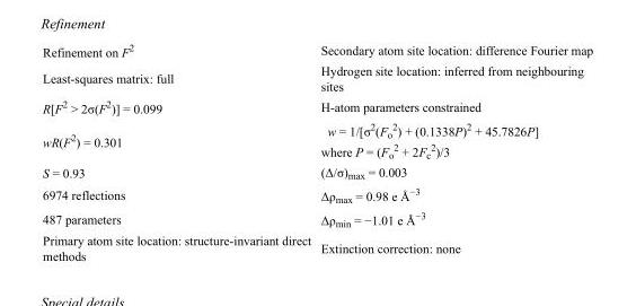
<table><tbody><tr><td>Refinement on F<sup>2</sup></td><td>Secondary atom site location: difference Fourier map</td></tr><tr><td>Least-squares matrix: full</td><td>Hydrogen site location: inferred from neighbouring sites</td></tr><tr><td>R[F<sup>2</sup> &gt; 2σ(F<sup>2</sup>)] = 0.099</td><td>H-atom parameters constrained</td></tr><tr><td>wR(F<sup>2</sup>) = 0.301</td><td>w = 1/[σ<sup>2</sup>(F<sub>o</sub> <sup>2</sup>) + (0.1338P)<sup>2</sup> + 45.7826P] where P = (F<sub>o</sub> <sup>2</sup> + 2F<sub>c</sub> <sup>2</sup>)/3</td></tr><tr><td>S = 0.93</td><td>(Δ/σ)<sub>max</sub> = 0.003</td></tr><tr><td>6974 reflections</td><td>Δρ<sub>max</sub> = 0.98 e Å<sup>−3</sup></td></tr><tr><td>487 parameters</td><td>Δρ<sub>min</sub> = −1.01 e Å<sup>−3</sup></td></tr><tr><td>Primary atom site location: structure-invariant direct methods</td><td>Extinction correction: none</td></tr></tbody></table>